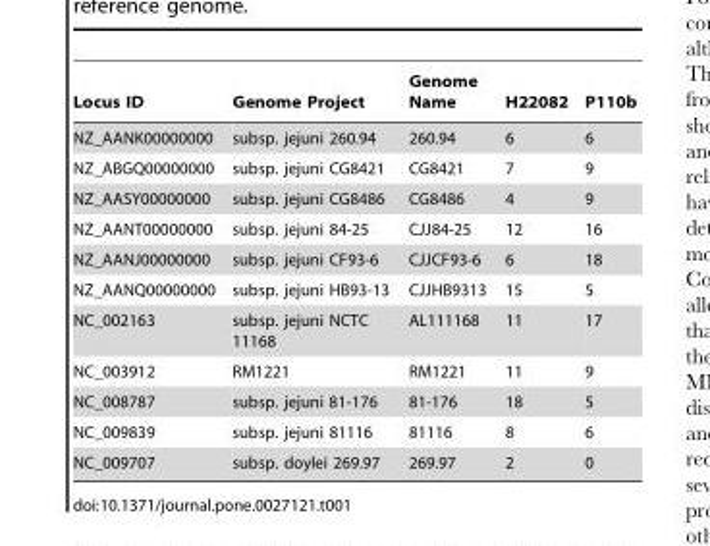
<table><thead><tr><td>Locus ID</td><td>Genome Project</td><td>Genome Name</td><td>H22082</td><td>P110b</td></tr></thead><tbody><tr><td>NZ_AANK00000000</td><td>subsp. jejuni 260.94</td><td>260.94</td><td>6</td><td>6</td></tr><tr><td>NZ_ABGQ00000000</td><td>subsp. jejuni CG8421</td><td>CG8421</td><td>7</td><td>9</td></tr><tr><td>NZ_AASY00000000</td><td>subsp. jejuni CG8486</td><td>CG8486</td><td>4</td><td>9</td></tr><tr><td>NZ_AANT00000000</td><td>subsp. jejuni 84-25</td><td>CJJ84-25</td><td>12</td><td>16</td></tr><tr><td>NZ_AANJ00000000</td><td>subsp. jejuni CF93-6</td><td>CJJCF93-6</td><td>6</td><td>18</td></tr><tr><td>NZ_AANQ00000000</td><td>subsp. jejuni HB93-13</td><td>CJJHB9313</td><td>15</td><td>5</td></tr><tr><td>NC_002163</td><td>subsp. jejuni NCTC 11168</td><td>AL111168</td><td>11</td><td>17</td></tr><tr><td>NC_003912</td><td>RM1221</td><td>RM1221</td><td>11</td><td>9</td></tr><tr><td>NC_008787</td><td>subsp. jejuni 81-176</td><td>81-176</td><td>18</td><td>5</td></tr><tr><td>NC_009839</td><td>subsp. jejuni 81116</td><td>81116</td><td>8</td><td>6</td></tr><tr><td>NC_009707</td><td>subsp. doylei 269.97</td><td>269.97</td><td>2</td><td>0</td></tr></tbody></table>